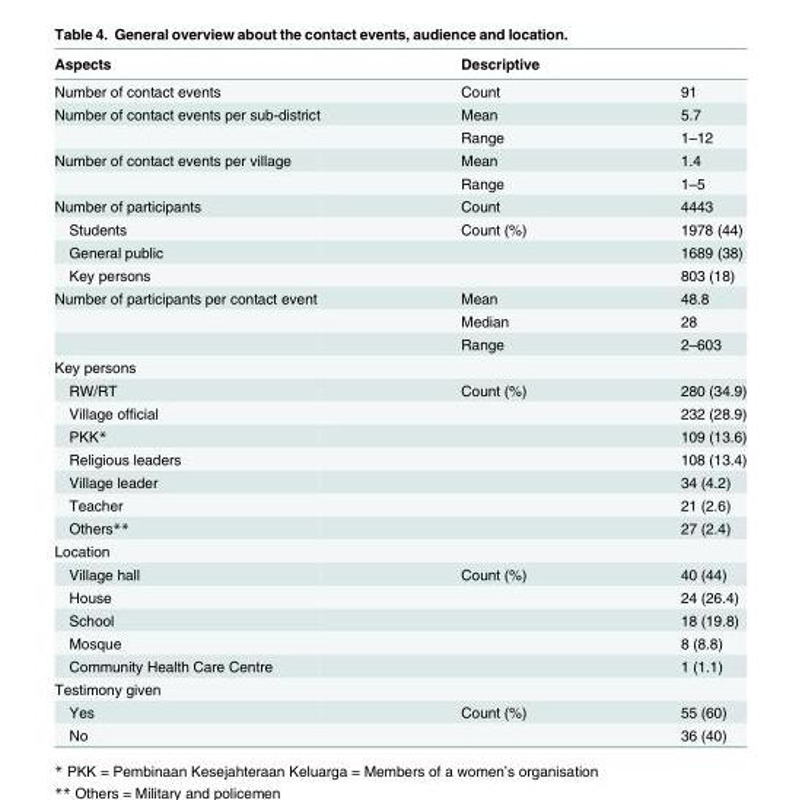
<table><thead><tr><td>Aspects</td><td>Descriptive</td><td></td></tr></thead><tbody><tr><td>Number of contact events</td><td>Count</td><td>91</td></tr><tr><td rowspan="2">Number of contact events per sub-district</td><td>Mean</td><td>5.7</td></tr><tr><td>Range</td><td>1–12</td></tr><tr><td rowspan="2">Number of contact events per village</td><td>Mean</td><td>1.4</td></tr><tr><td>Range</td><td>1–5</td></tr><tr><td>Number of participants</td><td>Count</td><td>4443</td></tr><tr><td>Students</td><td>Count (%)</td><td>1978 (44)</td></tr><tr><td>General public</td><td></td><td>1689 (38)</td></tr><tr><td>Key persons</td><td></td><td>803 (18)</td></tr><tr><td rowspan="3">Number of participants per contact event</td><td>Mean</td><td>48.8</td></tr><tr><td>Median</td><td>28</td></tr><tr><td>Range</td><td>2–603</td></tr><tr><td colspan="3">Key persons</td></tr><tr><td>RW/RT</td><td>Count (%)</td><td>280 (34.9)</td></tr><tr><td>Village official</td><td></td><td>232 (28.9)</td></tr><tr><td>PKK*</td><td></td><td>109 (13.6)</td></tr><tr><td>Religious leaders</td><td></td><td>108 (13.4)</td></tr><tr><td>Village leader</td><td></td><td>34 (4.2)</td></tr><tr><td>Teacher</td><td></td><td>21 (2.6)</td></tr><tr><td>Others**</td><td></td><td>27 (2.4)</td></tr><tr><td colspan="3">Location</td></tr><tr><td>Village hall</td><td>Count (%)</td><td>40 (44)</td></tr><tr><td>House</td><td></td><td>24 (26.4)</td></tr><tr><td>School</td><td></td><td>18 (19.8)</td></tr><tr><td>Mosque</td><td></td><td>8 (8.8)</td></tr><tr><td>Community Health Care Centre</td><td></td><td>1 (1.1)</td></tr><tr><td colspan="3">Testimony given</td></tr><tr><td>Yes</td><td>Count (%)</td><td>55 (60)</td></tr><tr><td>No</td><td></td><td>36 (40)</td></tr></tbody></table>